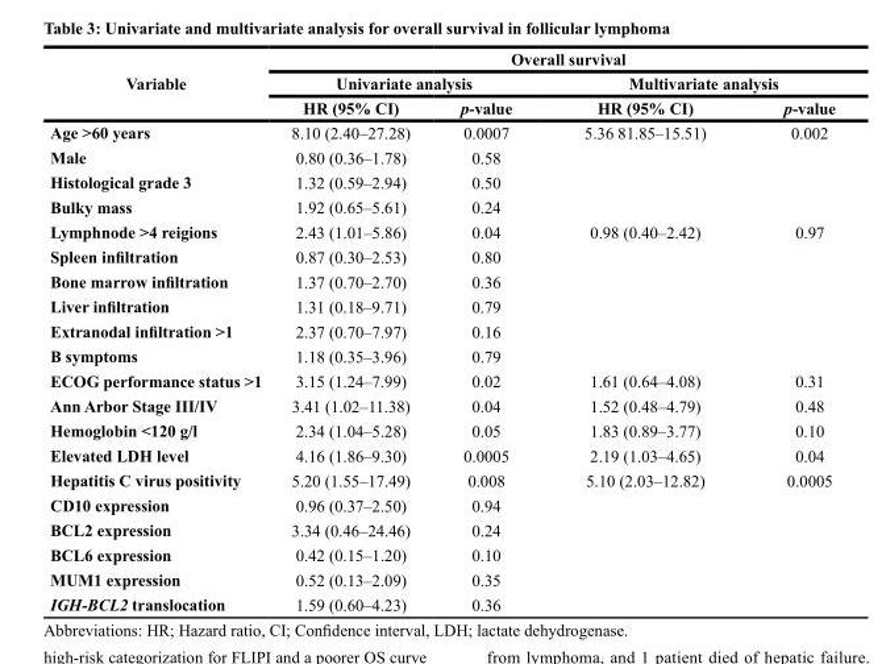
<table><thead><tr><td rowspan="3">Variable</td><td colspan="4">Overall survival</td></tr><tr><td colspan="2">Univariate analysis</td><td colspan="2">Multivariate analysis</td></tr><tr><td>HR (95% CI)</td><td>p-value</td><td>HR (95% CI)</td><td>p-value</td></tr></thead><tbody><tr><td>Age &gt;60 years</td><td>8.10 (2.40–27.28)</td><td>0.0007</td><td>5.36 81.85–15.51)</td><td>0.002</td></tr><tr><td>Male</td><td>0.80 (0.36–1.78)</td><td>0.58</td><td></td><td></td></tr><tr><td>Histological grade 3</td><td>1.32 (0.59–2.94)</td><td>0.50</td><td></td><td></td></tr><tr><td>Bulky mass</td><td>1.92 (0.65–5.61)</td><td>0.24</td><td></td><td></td></tr><tr><td>Lymphnode &gt;4 reigions</td><td>2.43 (1.01–5.86)</td><td>0.04</td><td>0.98 (0.40–2.42)</td><td>0.97</td></tr><tr><td>Spleen infiltration</td><td>0.87 (0.30–2.53)</td><td>0.80</td><td></td><td></td></tr><tr><td>Bone marrow infiltration</td><td>1.37 (0.70–2.70)</td><td>0.36</td><td></td><td></td></tr><tr><td>Liver infiltration</td><td>1.31 (0.18–9.71)</td><td>0.79</td><td></td><td></td></tr><tr><td>Extranodal infiltration &gt;1</td><td>2.37 (0.70–7.97)</td><td>0.16</td><td></td><td></td></tr><tr><td>B symptoms</td><td>1.18 (0.35–3.96)</td><td>0.79</td><td></td><td></td></tr><tr><td>ECOG performance status &gt;1</td><td>3.15 (1.24–7.99)</td><td>0.02</td><td>1.61 (0.64–4.08)</td><td>0.31</td></tr><tr><td>Ann Arbor Stage III/IV</td><td>3.41 (1.02–11.38)</td><td>0.04</td><td>1.52 (0.48–4.79)</td><td>0.48</td></tr><tr><td>Hemoglobin &lt;120 g/l</td><td>2.34 (1.04–5.28)</td><td>0.05</td><td>1.83 (0.89–3.77)</td><td>0.10</td></tr><tr><td>Elevated LDH level</td><td>4.16 (1.86–9.30)</td><td>0.0005</td><td>2.19 (1.03–4.65)</td><td>0.04</td></tr><tr><td>Hepatitis C virus positivity</td><td>5.20 (1.55–17.49)</td><td>0.008</td><td>5.10 (2.03–12.82)</td><td>0.0005</td></tr><tr><td>CD10 expression</td><td>0.96 (0.37–2.50)</td><td>0.94</td><td></td><td></td></tr><tr><td>BCL2 expression</td><td>3.34 (0.46–24.46)</td><td>0.24</td><td></td><td></td></tr><tr><td>BCL6 expression</td><td>0.42 (0.15–1.20)</td><td>0.10</td><td></td><td></td></tr><tr><td>MUM1 expression</td><td>0.52 (0.13–2.09)</td><td>0.35</td><td></td><td></td></tr><tr><td>IGH-BCL2 translocation</td><td>1.59 (0.60–4.23)</td><td>0.36</td><td></td><td></td></tr></tbody></table>